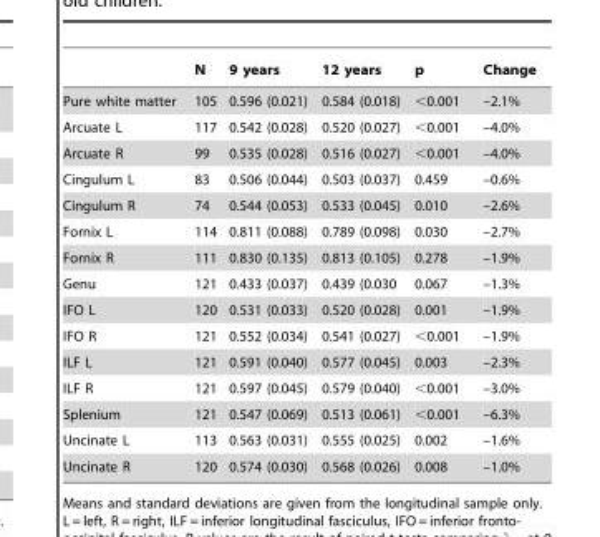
<table><thead><tr><td></td><td>N</td><td>9 years</td><td>12 years</td><td>p</td><td>Change</td></tr></thead><tbody><tr><td>Pure white matter</td><td>105</td><td>0.596 (0.021)</td><td>0.584 (0.018)</td><td>&lt;0.001</td><td>–2.1%</td></tr><tr><td>Arcuate L</td><td>117</td><td>0.542 (0.028)</td><td>0.520 (0.027)</td><td>&lt;0.001</td><td>–4.0%</td></tr><tr><td>Arcuate R</td><td>99</td><td>0.535 (0.028)</td><td>0.516 (0.027)</td><td>&lt;0.001</td><td>–4.0%</td></tr><tr><td>Cingulum L</td><td>83</td><td>0.506 (0.044)</td><td>0.503 (0.037)</td><td>0.459</td><td>–0.6%</td></tr><tr><td>Cingulum R</td><td>74</td><td>0.544 (0.053)</td><td>0.533 (0.045)</td><td>0.010</td><td>–2.6%</td></tr><tr><td>Fornix L</td><td>114</td><td>0.811 (0.088)</td><td>0.789 (0.098)</td><td>0.030</td><td>–2.7%</td></tr><tr><td>Fornix R</td><td>111</td><td>0.830 (0.135)</td><td>0.813 (0.105)</td><td>0.278</td><td>–1.9%</td></tr><tr><td>Genu</td><td>121</td><td>0.433 (0.037)</td><td>0.439 (0.030</td><td>0.067</td><td>–1.3%</td></tr><tr><td>IFO L</td><td>120</td><td>0.531 (0.033)</td><td>0.520 (0.028)</td><td>0.001</td><td>–1.9%</td></tr><tr><td>IFO R</td><td>121</td><td>0.552 (0.034)</td><td>0.541 (0.027)</td><td>&lt;0.001</td><td>–1.9%</td></tr><tr><td>ILF L</td><td>121</td><td>0.591 (0.040)</td><td>0.577 (0.045)</td><td>0.003</td><td>–2.3%</td></tr><tr><td>ILF R</td><td>121</td><td>0.597 (0.045)</td><td>0.579 (0.040)</td><td>&lt;0.001</td><td>–3.0%</td></tr><tr><td>Splenium</td><td>121</td><td>0.547 (0.069)</td><td>0.513 (0.061)</td><td>&lt;0.001</td><td>–6.3%</td></tr><tr><td>Uncinate L</td><td>113</td><td>0.563 (0.031)</td><td>0.555 (0.025)</td><td>0.002</td><td>–1.6%</td></tr><tr><td>Uncinate R</td><td>120</td><td>0.574 (0.030)</td><td>0.568 (0.026)</td><td>0.008</td><td>–1.0%</td></tr></tbody></table>